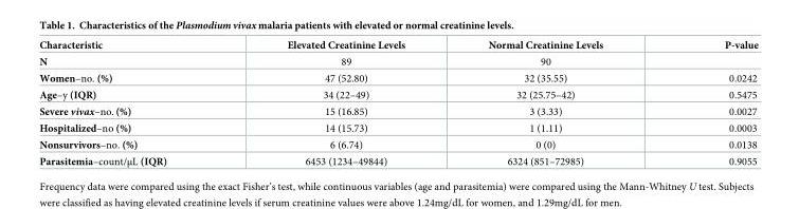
<table><thead><tr><td>Characteristic</td><td>Elevated Creatinine Levels</td><td>Normal Creatinine Levels</td><td>P-value</td></tr></thead><tbody><tr><td>N</td><td>89</td><td>90</td><td></td></tr><tr><td>Women–no. (%)</td><td>47 (52.80)</td><td>32 (35.55)</td><td>0.0242</td></tr><tr><td>Age–y (IQR)</td><td>34 (22–49)</td><td>32 (25.75–42)</td><td>0.5475</td></tr><tr><td>Severe vivax–no. (%)</td><td>15 (16.85)</td><td>3 (3.33)</td><td>0.0027</td></tr><tr><td>Hospitalized–no (%)</td><td>14 (15.73)</td><td>1 (1.11)</td><td>0.0003</td></tr><tr><td>Nonsurvivors–no. (%)</td><td>6 (6.74)</td><td>0 (0)</td><td>0.0138</td></tr><tr><td>Parasitemia–count/μL (IQR)</td><td>6453 (1234–49844)</td><td>6324 (851–72985)</td><td>0.9055</td></tr></tbody></table>